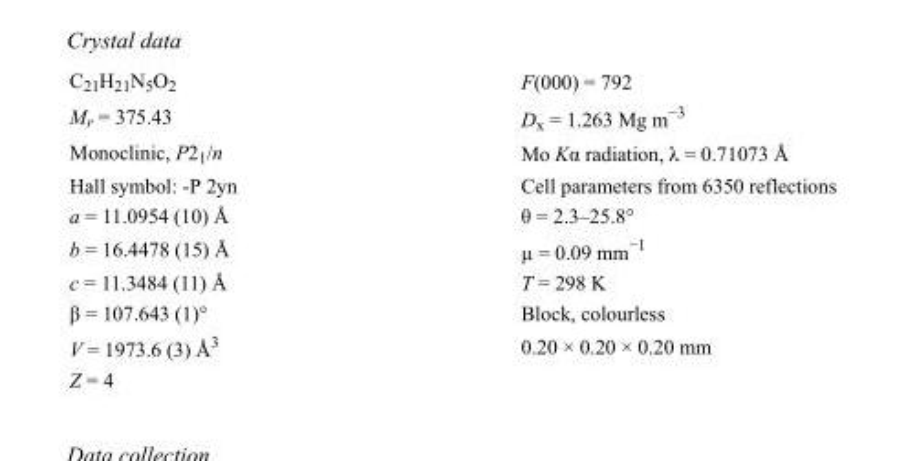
<table><tbody><tr><td>C<sub>21</sub>H<sub>21</sub>N<sub>5</sub>O<sub>2</sub></td><td>F(000) = 792</td></tr><tr><td>M<sub>r</sub> = 375.43</td><td>D<sub>x</sub> = 1.263 Mg m<sup>−3</sup></td></tr><tr><td>Monoclinic, P2<sub>1</sub>/n</td><td>Mo Kα radiation, λ = 0.71073 Å</td></tr><tr><td>Hall symbol: -P 2yn</td><td>Cell parameters from 6350 reflections</td></tr><tr><td>a = 11.0954 (10) Å</td><td>θ = 2.3–25.8°</td></tr><tr><td>b = 16.4478 (15) Å</td><td>µ = 0.09 mm<sup>−1</sup></td></tr><tr><td>c = 11.3484 (11) Å</td><td>T = 298 K</td></tr><tr><td>β = 107.643 (1)°</td><td>Block, colourless</td></tr><tr><td>V = 1973.6 (3) Å<sup>3</sup></td><td>0.20 × 0.20 × 0.20 mm</td></tr><tr><td>Z = 4</td><td></td></tr></tbody></table>